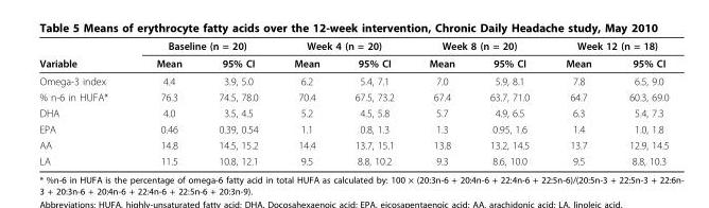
<table><thead><tr><td rowspan="2">Variable</td><td colspan="2">Baseline (n = 20)</td><td colspan="2">Week 4 (n = 20)</td><td colspan="2">Week 8 (n = 20)</td><td colspan="2">Week 12 (n = 18)</td></tr><tr><td>Mean</td><td>95% CI</td><td>Mean</td><td>95% CI</td><td>Mean</td><td>95% CI</td><td>Mean</td><td>95% CI</td></tr></thead><tbody><tr><td>Omega-3 index</td><td>4.4</td><td>3.9, 5.0</td><td>6.2</td><td>5.4, 7.1</td><td>7.0</td><td>5.9, 8.1</td><td>7.8</td><td>6.5, 9.0</td></tr><tr><td>% n-6 in HUFA*</td><td>76.3</td><td>74.5, 78.0</td><td>70.4</td><td>67.5, 73.2</td><td>67.4</td><td>63.7, 71.0</td><td>64.7</td><td>60.3, 69.0</td></tr><tr><td>DHA</td><td>4.0</td><td>3.5, 4.5</td><td>5.2</td><td>4.5, 5.8</td><td>5.7</td><td>4.9, 6.5</td><td>6.3</td><td>5.4, 7.3</td></tr><tr><td>EPA</td><td>0.46</td><td>0.39, 0.54</td><td>1.1</td><td>0.8, 1.3</td><td>1.3</td><td>0.95, 1.6</td><td>1.4</td><td>1.0, 1.8</td></tr><tr><td>AA</td><td>14.8</td><td>14.5, 15.2</td><td>14.4</td><td>13.7, 15.1</td><td>13.8</td><td>13.2, 14.5</td><td>13.7</td><td>12.9, 14.5</td></tr><tr><td>LA</td><td>11.5</td><td>10.8, 12.1</td><td>9.5</td><td>8.8, 10.2</td><td>9.3</td><td>8.6, 10.0</td><td>9.5</td><td>8.8, 10.3</td></tr></tbody></table>